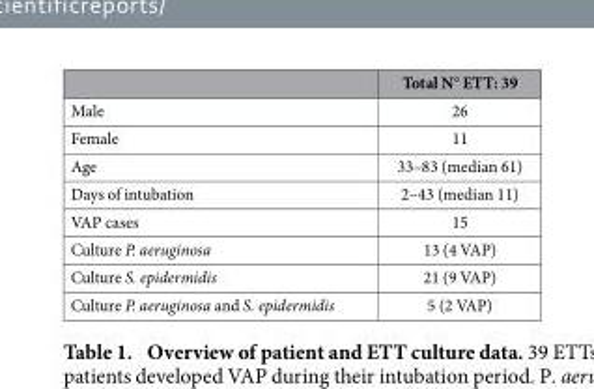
<table><thead><tr><td></td><td>Total N° ETT: 39</td></tr></thead><tbody><tr><td>Male</td><td>26</td></tr><tr><td>Female</td><td>11</td></tr><tr><td>Age</td><td>33–83 (median 61)</td></tr><tr><td>Days of intubation</td><td>2–43 (median 11)</td></tr><tr><td>VAP cases</td><td>15</td></tr><tr><td>Culture P. aeruginosa</td><td>13 (4 VAP)</td></tr><tr><td>Culture S. epidermidis</td><td>21 (9 VAP)</td></tr><tr><td>Culture P. aeruginosa and S. epidermidis</td><td>5 (2 VAP)</td></tr></tbody></table>